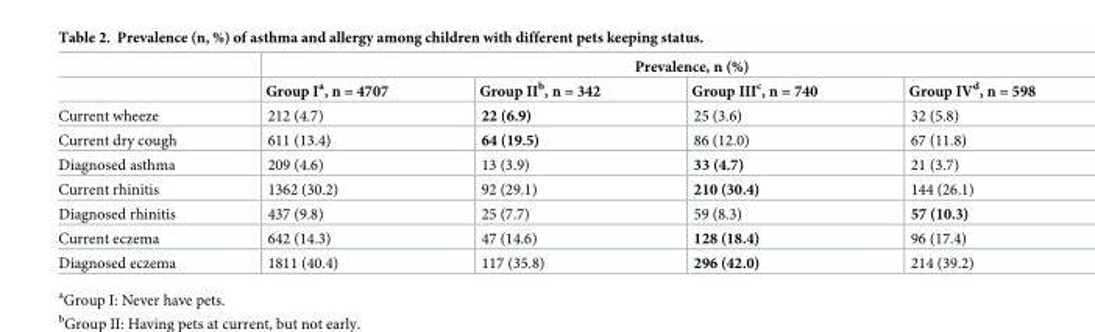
<table><thead><tr><td rowspan="2"></td><td colspan="4">Prevalence, n (%)</td></tr><tr><td>Group I<sup>a</sup>, n = 4707</td><td>Group II<sup>b</sup>, n = 342</td><td>Group III<sup>c</sup>, n = 740</td><td>Group IV<sup>d</sup>, n = 598</td></tr></thead><tbody><tr><td>Current wheeze</td><td>212 (4.7)</td><td>22 (6.9)</td><td>25 (3.6)</td><td>32 (5.8)</td></tr><tr><td>Current dry cough</td><td>611 (13.4)</td><td>64 (19.5)</td><td>86 (12.0)</td><td>67 (11.8)</td></tr><tr><td>Diagnosed asthma</td><td>209 (4.6)</td><td>13 (3.9)</td><td>33 (4.7)</td><td>21 (3.7)</td></tr><tr><td>Current rhinitis</td><td>1362 (30.2)</td><td>92 (29.1)</td><td>210 (30.4)</td><td>144 (26.1)</td></tr><tr><td>Diagnosed rhinitis</td><td>437 (9.8)</td><td>25 (7.7)</td><td>59 (8.3)</td><td>57 (10.3)</td></tr><tr><td>Current eczema</td><td>642 (14.3)</td><td>47 (14.6)</td><td>128 (18.4)</td><td>96 (17.4)</td></tr><tr><td>Diagnosed eczema</td><td>1811 (40.4)</td><td>117 (35.8)</td><td>296 (42.0)</td><td>214 (39.2)</td></tr></tbody></table>